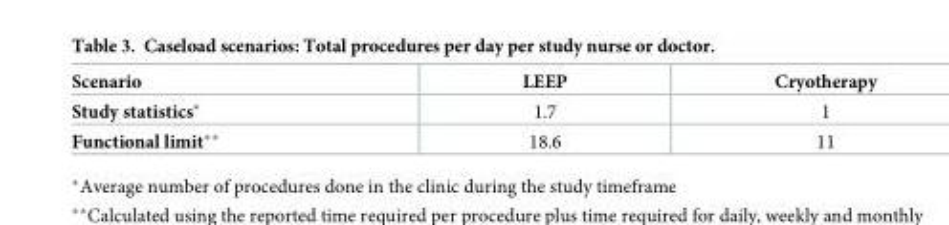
<table><thead><tr><td>Scenario</td><td>LEEP</td><td>Cryotherapy</td></tr></thead><tbody><tr><td>Study statistics*</td><td>1.7</td><td>1</td></tr><tr><td>Functional limit**</td><td>18.6</td><td>11</td></tr></tbody></table>